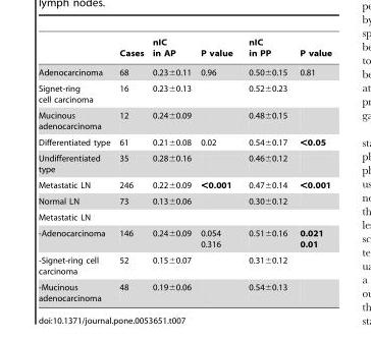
<table><thead><tr><td></td><td>Cases</td><td>nIC in AP</td><td>P value</td><td>nIC in PP</td><td>P value</td></tr></thead><tbody><tr><td>Adenocarcinoma</td><td>68</td><td>0.23±0.11</td><td>0.96</td><td>0.50±0.15</td><td>0.81</td></tr><tr><td>Signet-ring cell carcinoma</td><td>16</td><td>0.23±0.13</td><td></td><td>0.52±0.23</td><td></td></tr><tr><td>Mucinous adenocarcinoma</td><td>12</td><td>0.24±0.09</td><td></td><td>0.48±0.15</td><td></td></tr><tr><td>Differentiated type</td><td>61</td><td>0.21±0.08</td><td>0.02</td><td>0.54±0.17</td><td>&lt;0.05</td></tr><tr><td>Undifferentiated type</td><td>35</td><td>0.28±0.16</td><td></td><td>0.46±0.12</td><td></td></tr><tr><td>Metastatic LN</td><td>246</td><td>0.22±0.09</td><td>&lt;0.001</td><td>0.47±0.14</td><td>&lt;0.001</td></tr><tr><td>Normal LN</td><td>73</td><td>0.13±0.06</td><td></td><td>0.30±0.12</td><td></td></tr><tr><td colspan="6">Metastatic LN</td></tr><tr><td>-Adenocarcinoma</td><td>146</td><td>0.24±0.09</td><td>0.054 0.316</td><td>0.51±0.16</td><td>0.021 0.01</td></tr><tr><td>-Signet-ring cell carcinoma</td><td>52</td><td>0.15±0.07</td><td></td><td>0.31±0.12</td><td></td></tr><tr><td>-Mucinous adenocarcinoma</td><td>48</td><td>0.19±0.06</td><td></td><td>0.54±0.13</td><td></td></tr></tbody></table>